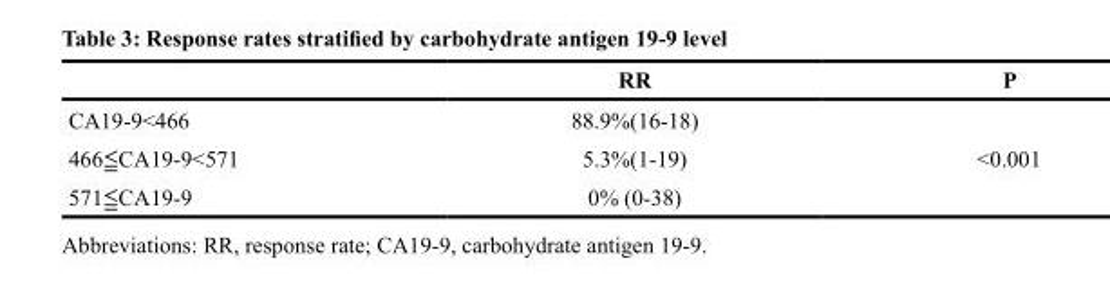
<table><thead><tr><td></td><td>RR</td><td>P</td></tr></thead><tbody><tr><td>CA19-9&lt;466</td><td>88.9%(16-18)</td><td></td></tr><tr><td>466≦CA19-9&lt;571</td><td>5.3%(1-19)</td><td>&lt;0.001</td></tr><tr><td>571≦CA19-9</td><td>0% (0-38)</td><td></td></tr></tbody></table>